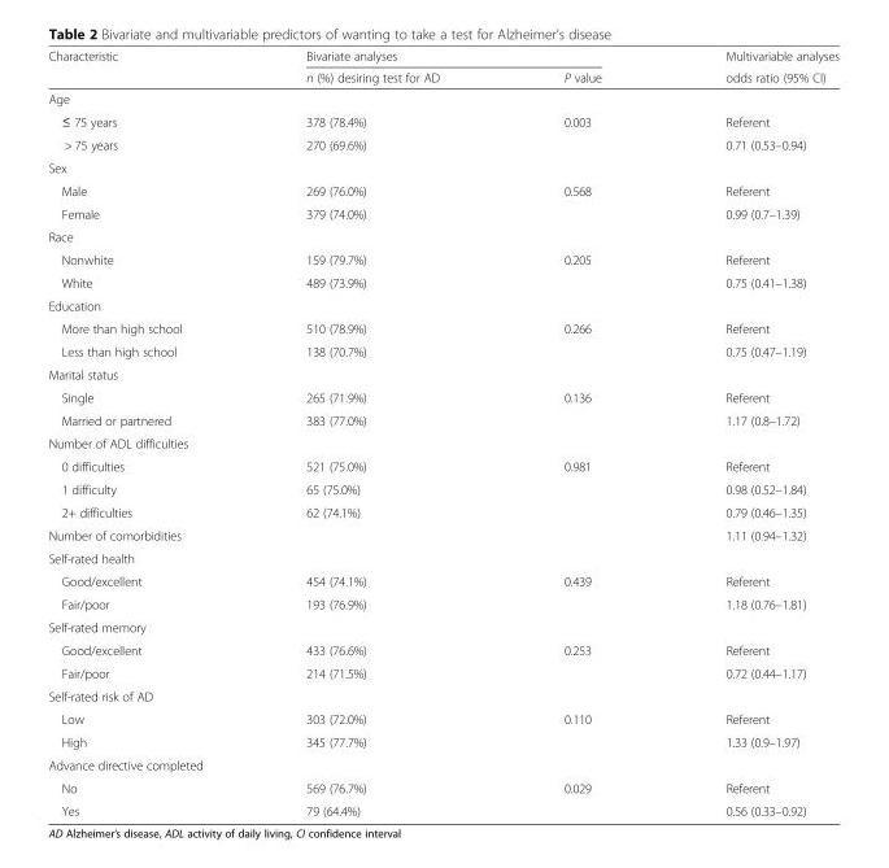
<table><thead><tr><td rowspan="2">Characteristic</td><td colspan="2">Bivariate analyses</td><td rowspan="2">Multivariable analyses odds ratio (95% CI)</td></tr><tr><td>n (%) desiring test for AD</td><td>P value</td></tr></thead><tbody><tr><td colspan="4">Age</td></tr><tr><td>≤ 75 years</td><td>378 (78.4%)</td><td rowspan="2">0.003</td><td>Referent</td></tr><tr><td>&gt; 75 years</td><td>270 (69.6%)</td><td>0.71 (0.53–0.94)</td></tr><tr><td colspan="4">Sex</td></tr><tr><td>Male</td><td>269 (76.0%)</td><td rowspan="2">0.568</td><td>Referent</td></tr><tr><td>Female</td><td>379 (74.0%)</td><td>0.99 (0.7–1.39)</td></tr><tr><td colspan="4">Race</td></tr><tr><td>Nonwhite</td><td>159 (79.7%)</td><td rowspan="2">0.205</td><td>Referent</td></tr><tr><td>White</td><td>489 (73.9%)</td><td>0.75 (0.41–1.38)</td></tr><tr><td colspan="4">Education</td></tr><tr><td>More than high school</td><td>510 (78.9%)</td><td rowspan="2">0.266</td><td>Referent</td></tr><tr><td>Less than high school</td><td>138 (70.7%)</td><td>0.75 (0.47–1.19)</td></tr><tr><td colspan="4">Marital status</td></tr><tr><td>Single</td><td>265 (71.9%)</td><td rowspan="2">0.136</td><td>Referent</td></tr><tr><td>Married or partnered</td><td>383 (77.0%)</td><td>1.17 (0.8–1.72)</td></tr><tr><td colspan="4">Number of ADL difficulties</td></tr><tr><td>0 difficulties</td><td>521 (75.0%)</td><td rowspan="3">0.981</td><td>Referent</td></tr><tr><td>1 difficulty</td><td>65 (75.0%)</td><td>0.98 (0.52–1.84)</td></tr><tr><td>2+ difficulties</td><td>62 (74.1%)</td><td>0.79 (0.46–1.35)</td></tr><tr><td>Number of comorbidities</td><td></td><td></td><td>1.11 (0.94–1.32)</td></tr><tr><td colspan="4">Self-rated health</td></tr><tr><td>Good/excellent</td><td>454 (74.1%)</td><td rowspan="2">0.439</td><td>Referent</td></tr><tr><td>Fair/poor</td><td>193 (76.9%)</td><td>1.18 (0.76–1.81)</td></tr><tr><td colspan="4">Self-rated memory</td></tr><tr><td>Good/excellent</td><td>433 (76.6%)</td><td rowspan="2">0.253</td><td>Referent</td></tr><tr><td>Fair/poor</td><td>214 (71.5%)</td><td>0.72 (0.44–1.17)</td></tr><tr><td colspan="4">Self-rated risk of AD</td></tr><tr><td>Low</td><td>303 (72.0%)</td><td rowspan="2">0.110</td><td>Referent</td></tr><tr><td>High</td><td>345 (77.7%)</td><td>1.33 (0.9–1.97)</td></tr><tr><td colspan="4">Advance directive completed</td></tr><tr><td>No</td><td>569 (76.7%)</td><td rowspan="2">0.029</td><td>Referent</td></tr><tr><td>Yes</td><td>79 (64.4%)</td><td>0.56 (0.33–0.92)</td></tr></tbody></table>